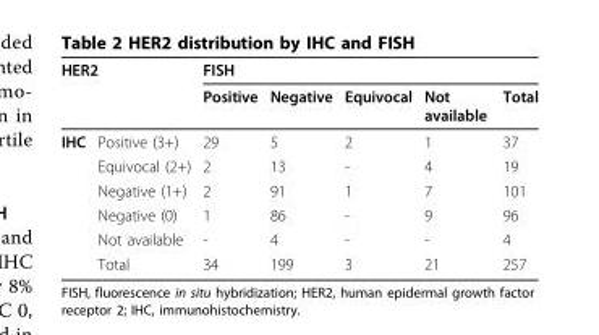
<table><thead><tr><td colspan="2">HER2</td><td colspan="5">FISH</td></tr><tr><td></td><td></td><td>Positive</td><td>Negative</td><td>Equivocal</td><td>Not available</td><td>Total</td></tr></thead><tbody><tr><td rowspan="6">IHC</td><td>Positive (3+)</td><td>29</td><td>5</td><td>2</td><td>1</td><td>37</td></tr><tr><td>Equivocal (2+)</td><td>2</td><td>13</td><td>-</td><td>4</td><td>19</td></tr><tr><td>Negative (1+)</td><td>2</td><td>91</td><td>1</td><td>7</td><td>101</td></tr><tr><td>Negative (0)</td><td>1</td><td>86</td><td>-</td><td>9</td><td>96</td></tr><tr><td>Not available</td><td>-</td><td>4</td><td>-</td><td>-</td><td>4</td></tr><tr><td>Total</td><td>34</td><td>199</td><td>3</td><td>21</td><td>257</td></tr></tbody></table>